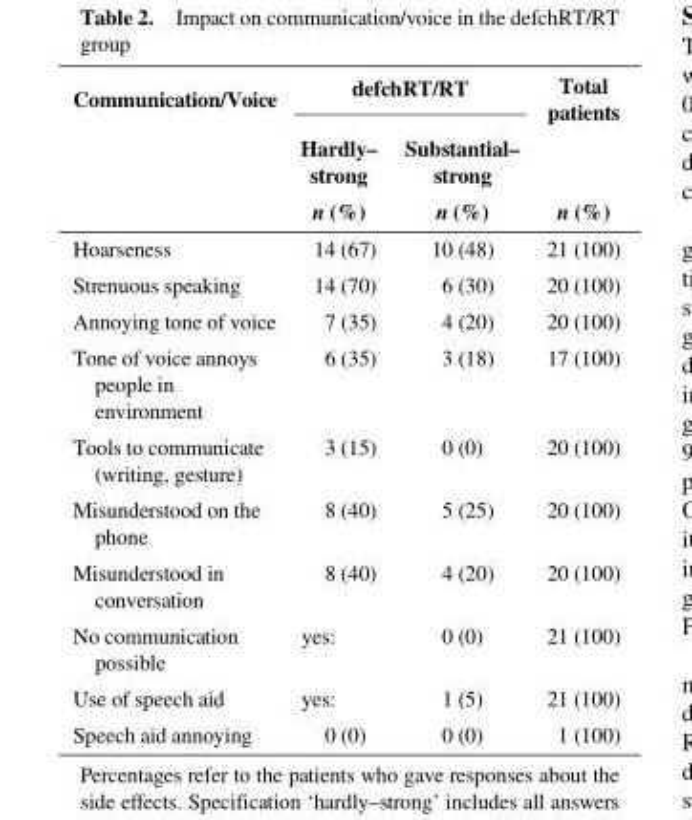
<table><thead><tr><td rowspan="3">Communication/Voice</td><td colspan="2">defchRT/RT</td><td rowspan="3">Total patients n (%)</td></tr><tr><td rowspan="2">Hardly– strong n (%)</td><td rowspan="2">Substantial– strong n (%)</td></tr><tr></tr></thead><tbody><tr><td>Hoarseness</td><td>14 (67)</td><td>10 (48)</td><td>21 (100)</td></tr><tr><td>Strenuous speaking</td><td>14 (70)</td><td>6 (30)</td><td>20 (100)</td></tr><tr><td>Annoying tone of voice</td><td>7 (35)</td><td>4 (20)</td><td>20 (100)</td></tr><tr><td>Tone of voice annoys people in environment</td><td>6 (35)</td><td>3 (18)</td><td>17 (100)</td></tr><tr><td>Tools to communicate (writing, gesture)</td><td>3 (15)</td><td>0 (0)</td><td>20 (100)</td></tr><tr><td>Misunderstood on the phone</td><td>8 (40)</td><td>5 (25)</td><td>20 (100)</td></tr><tr><td>Misunderstood in conversation</td><td>8 (40)</td><td>4 (20)</td><td>20 (100)</td></tr><tr><td>No communication possible</td><td>yes:</td><td>0 (0)</td><td>21 (100)</td></tr><tr><td>Use of speech aid</td><td>yes:</td><td>1 (5)</td><td>21 (100)</td></tr><tr><td>Speech aid annoying</td><td>0 (0)</td><td>0 (0)</td><td>1 (100)</td></tr></tbody></table>